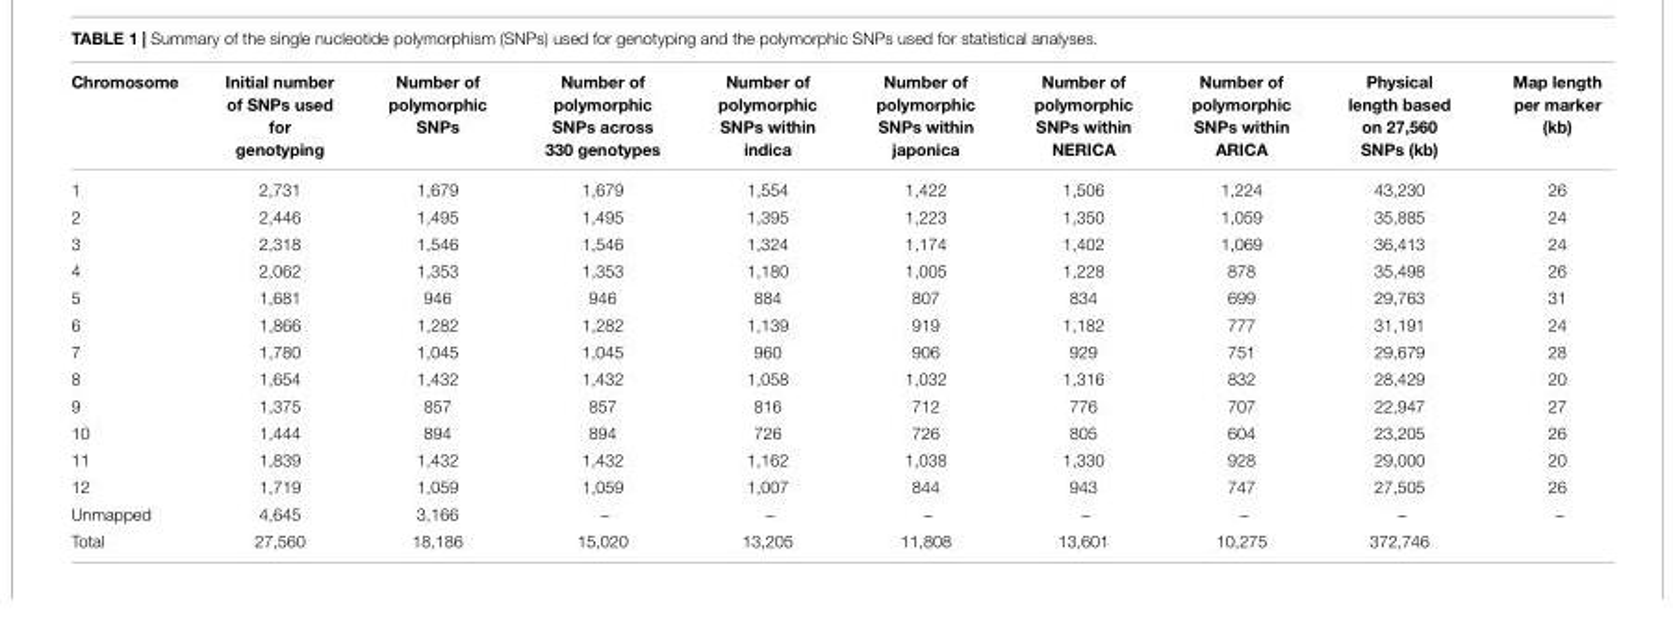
<table><thead><tr><td>Chromosome</td><td>Initial number of SNPs used for genotyping</td><td>Number of polymorphic SNPs</td><td>Number of polymorphic SNPs across 330 genotypes</td><td>Number of polymorphic SNPs within indica</td><td>Number of polymorphic SNPs within japonica</td><td>Number of polymorphic SNPs within NERICA</td><td>Number of polymorphic SNPs within ARICA</td><td>Physical length based on 27,560 SNPs (kb)</td><td>Map length per marker (kb)</td></tr></thead><tbody><tr><td>1</td><td>2,731</td><td>1,679</td><td>1,679</td><td>1,554</td><td>1,422</td><td>1,506</td><td>1,224</td><td>43,230</td><td>26</td></tr><tr><td>2</td><td>2,446</td><td>1,495</td><td>1,495</td><td>1,395</td><td>1,223</td><td>1,350</td><td>1,059</td><td>35,885</td><td>24</td></tr><tr><td>3</td><td>2,318</td><td>1,546</td><td>1,546</td><td>1,324</td><td>1,174</td><td>1,402</td><td>1,069</td><td>36,413</td><td>24</td></tr><tr><td>4</td><td>2,062</td><td>1,353</td><td>1,353</td><td>1,180</td><td>1,005</td><td>1,228</td><td>878</td><td>35,498</td><td>26</td></tr><tr><td>5</td><td>1,681</td><td>946</td><td>946</td><td>884</td><td>807</td><td>834</td><td>699</td><td>29,763</td><td>31</td></tr><tr><td>6</td><td>1,866</td><td>1,282</td><td>1,282</td><td>1,139</td><td>919</td><td>1,182</td><td>777</td><td>31,191</td><td>24</td></tr><tr><td>7</td><td>1,780</td><td>1,045</td><td>1,045</td><td>960</td><td>906</td><td>929</td><td>751</td><td>29,679</td><td>28</td></tr><tr><td>8</td><td>1,654</td><td>1,432</td><td>1,432</td><td>1,058</td><td>1,032</td><td>1,316</td><td>832</td><td>28,429</td><td>20</td></tr><tr><td>9</td><td>1,375</td><td>857</td><td>857</td><td>816</td><td>712</td><td>776</td><td>707</td><td>22,947</td><td>27</td></tr><tr><td>10</td><td>1,444</td><td>894</td><td>894</td><td>726</td><td>726</td><td>805</td><td>604</td><td>23,205</td><td>26</td></tr><tr><td>11</td><td>1,839</td><td>1,432</td><td>1,432</td><td>1,162</td><td>1,038</td><td>1,330</td><td>928</td><td>29,000</td><td>20</td></tr><tr><td>12</td><td>1,719</td><td>1,059</td><td>1,059</td><td>1,007</td><td>844</td><td>943</td><td>747</td><td>27,505</td><td>26</td></tr><tr><td>Unmapped</td><td>4,645</td><td>3,166</td><td>–</td><td>–</td><td>–</td><td>–</td><td>–</td><td>–</td><td>–</td></tr><tr><td>Total</td><td>27,560</td><td>18,186</td><td>15,020</td><td>13,205</td><td>11,808</td><td>13,601</td><td>10,275</td><td>372,746</td><td></td></tr></tbody></table>